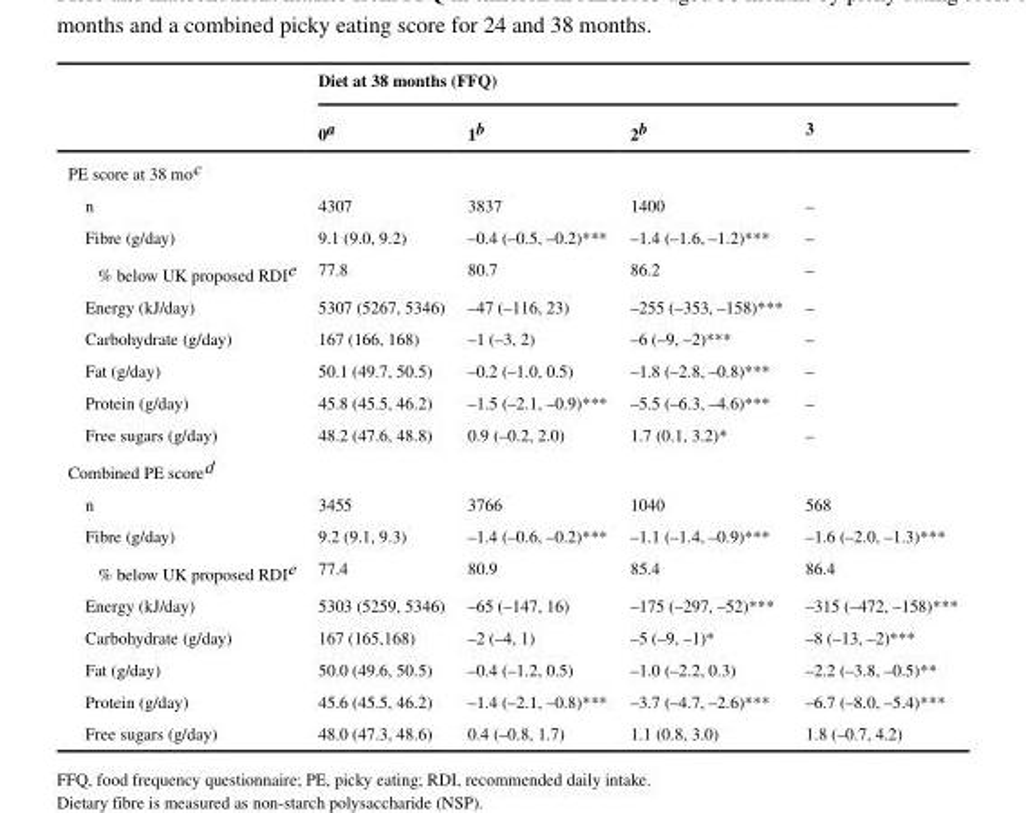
<table><thead><tr><td rowspan="2"></td><td colspan="4">Diet at 38 months (FFQ)</td></tr><tr><td>0<sup>a</sup></td><td>1<sup>b</sup></td><td>2<sup>b</sup></td><td>3</td></tr></thead><tbody><tr><td colspan="5">PE score at 38 mo<sup>c</sup></td></tr><tr><td>n</td><td>4307</td><td>3837</td><td>1400</td><td>–</td></tr><tr><td>Fibre (g/day)</td><td>9.1 (9.0, 9.2)</td><td>–0.4 (–0.5, –0.2)***</td><td>–1.4 (–1.6, –1.2)***</td><td>–</td></tr><tr><td>% below UK proposed RDI<sup>e</sup></td><td>77.8</td><td>80.7</td><td>86.2</td><td>–</td></tr><tr><td>Energy (kJ/day)</td><td>5307 (5267, 5346)</td><td>–47 (–116, 23)</td><td>–255 (–353, –158)***</td><td>–</td></tr><tr><td>Carbohydrate (g/day)</td><td>167 (166, 168)</td><td>–1 (–3, 2)</td><td>–6 (–9, –2)***</td><td>–</td></tr><tr><td>Fat (g/day)</td><td>50.1 (49.7, 50.5)</td><td>–0.2 (–1.0, 0.5)</td><td>–1.8 (–2.8, –0.8)***</td><td>–</td></tr><tr><td>Protein (g/day)</td><td>45.8 (45.5, 46.2)</td><td>–1.5 (–2.1, –0.9)***</td><td>–5.5 (–6.3, –4.6)***</td><td>–</td></tr><tr><td>Free sugars (g/day)</td><td>48.2 (47.6, 48.8)</td><td>0.9 (–0.2, 2.0)</td><td>1.7 (0.1, 3.2)*</td><td>–</td></tr><tr><td colspan="5">Combined PE score<sup>d</sup></td></tr><tr><td>n</td><td>3455</td><td>3766</td><td>1040</td><td>568</td></tr><tr><td>Fibre (g/day)</td><td>9.2 (9.1, 9.3)</td><td>–1.4 (–0.6, –0.2)***</td><td>–1.1 (–1.4, –0.9)***</td><td>–1.6 (–2.0, –1.3)***</td></tr><tr><td>% below UK proposed RDI<sup>e</sup></td><td>77.4</td><td>80.9</td><td>85.4</td><td>86.4</td></tr><tr><td>Energy (kJ/day)</td><td>5303 (5259, 5346)</td><td>–65 (–147, 16)</td><td>–175 (–297, –52)***</td><td>–315 (–472, –158)***</td></tr><tr><td>Carbohydrate (g/day)</td><td>167 (165,168)</td><td>–2 (–4, 1)</td><td>–5 (–9, –1)*</td><td>–8 (–13, –2)***</td></tr><tr><td>Fat (g/day)</td><td>50.0 (49.6, 50.5)</td><td>–0.4 (–1.2, 0.5)</td><td>–1.0 (–2.2, 0.3)</td><td>–2.2 (–3.8, –0.5)**</td></tr><tr><td>Protein (g/day)</td><td>45.6 (45.5, 46.2)</td><td>–1.4 (–2.1, –0.8)***</td><td>–3.7 (–4.7, –2.6)***</td><td>–6.7 (–8.0, –5.4)***</td></tr><tr><td>Free sugars (g/day)</td><td>48.0 (47.3, 48.6)</td><td>0.4 (–0.8, 1.7)</td><td>1.1 (0.8, 3.0)</td><td>1.8 (–0.7, 4.2)</td></tr></tbody></table>